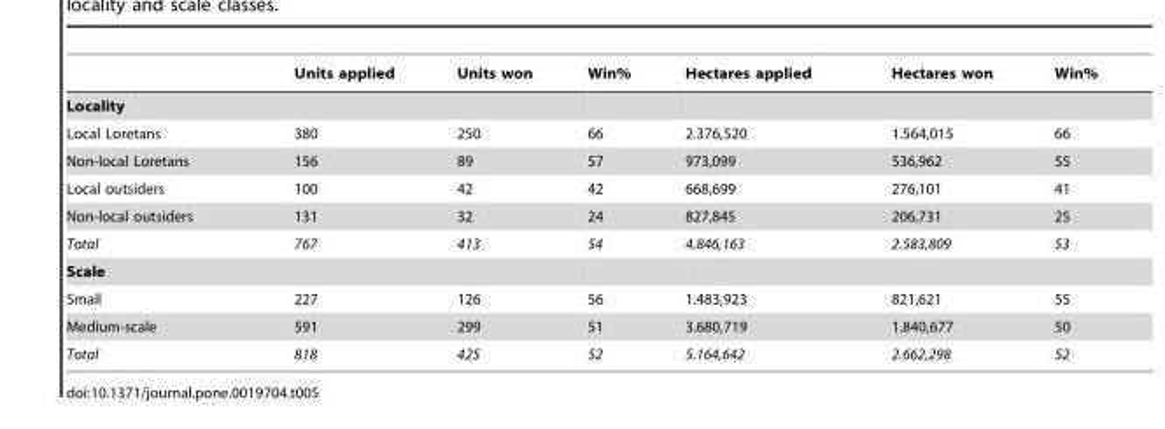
<table><thead><tr><td></td><td>Units applied</td><td>Units won</td><td>Win%</td><td>Hectares applied</td><td>Hectares won</td><td>Win%</td></tr></thead><tbody><tr><td colspan="7">Locality</td></tr><tr><td>Local Loretans</td><td>380</td><td>250</td><td>66</td><td>2.376,520</td><td>1.564,015</td><td>66</td></tr><tr><td>Non-local Loretans</td><td>156</td><td>89</td><td>57</td><td>973,099</td><td>536,962</td><td>55</td></tr><tr><td>Local outsiders</td><td>100</td><td>42</td><td>42</td><td>668,699</td><td>276,101</td><td>41</td></tr><tr><td>Non-local outsiders</td><td>131</td><td>32</td><td>24</td><td>827,845</td><td>206,731</td><td>25</td></tr><tr><td>Total</td><td>767</td><td>413</td><td>54</td><td>4.846,163</td><td>2.583,809</td><td>53</td></tr><tr><td colspan="7">Scale</td></tr><tr><td>Small</td><td>227</td><td>126</td><td>56</td><td>1.483,923</td><td>821,621</td><td>55</td></tr><tr><td>Medium-scale</td><td>591</td><td>299</td><td>51</td><td>3.680,719</td><td>1.840,677</td><td>50</td></tr><tr><td>Total</td><td>818</td><td>425</td><td>52</td><td>5.164,642</td><td>2.662,298</td><td>52</td></tr></tbody></table>